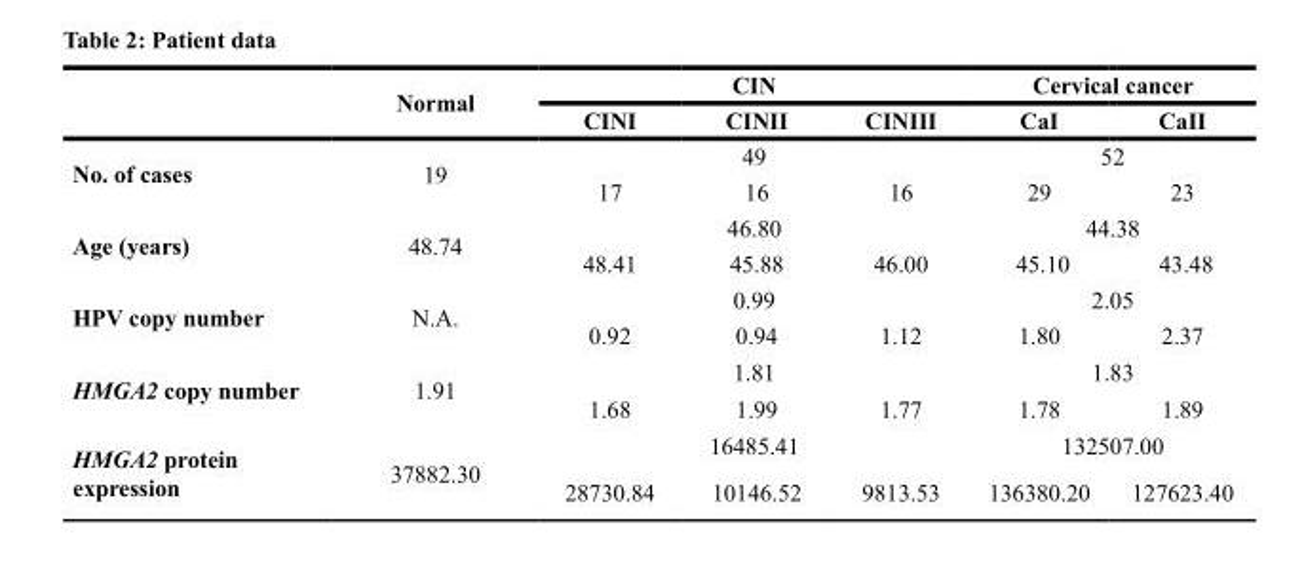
<table><thead><tr><td rowspan="2"></td><td rowspan="2">Normal</td><td colspan="3">CIN</td><td colspan="2">Cervical cancer</td></tr><tr><td>CINI</td><td>CINII</td><td>CINIII</td><td>CaI</td><td>CaII</td></tr></thead><tbody><tr><td rowspan="2">No. of cases</td><td rowspan="2">19</td><td colspan="3">49</td><td colspan="2">52</td></tr><tr><td>17</td><td>16</td><td>16</td><td>29</td><td>23</td></tr><tr><td rowspan="2">Age (years)</td><td rowspan="2">48.74</td><td colspan="3">46.80</td><td colspan="2">44.38</td></tr><tr><td>48.41</td><td>45.88</td><td>46.00</td><td>45.10</td><td>43.48</td></tr><tr><td rowspan="2">HPV copy number</td><td rowspan="2">N.A.</td><td colspan="3">0.99</td><td colspan="2">2.05</td></tr><tr><td>0.92</td><td>0.94</td><td>1.12</td><td>1.80</td><td>2.37</td></tr><tr><td rowspan="2">HMGA2 copy number</td><td rowspan="2">1.91</td><td colspan="3">1.81</td><td colspan="2">1.83</td></tr><tr><td>1.68</td><td>1.99</td><td>1.77</td><td>1.78</td><td>1.89</td></tr><tr><td rowspan="2">HMGA2 protein expression</td><td rowspan="2">37882.30</td><td colspan="3">16485.41</td><td colspan="2">132507.00</td></tr><tr><td>28730.84</td><td>10146.52</td><td>9813.53</td><td>136380.20</td><td>127623.40</td></tr></tbody></table>